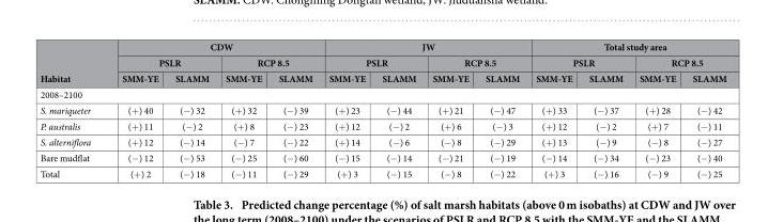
<table><thead><tr><td rowspan="3">Habitat</td><td colspan="4">CDW</td><td colspan="4">JW</td><td colspan="4">Total study area</td></tr><tr><td colspan="2">PSLR</td><td colspan="2">RCP 8.5</td><td colspan="2">PSLR</td><td colspan="2">RCP 8.5</td><td colspan="2">PSLR</td><td colspan="2">RCP 8.5</td></tr><tr><td>SMM-YE</td><td>SLAMM</td><td>SMM-YE</td><td>SLAMM</td><td>SMM-YE</td><td>SLAMM</td><td>SMM-YE</td><td>SLAMM</td><td>SMM-YE</td><td>SLAMM</td><td>SMM-YE</td><td>SLAMM</td></tr></thead><tbody><tr><td colspan="13">2008–2100</td></tr><tr><td>S. mariqueter</td><td>(+ ) 40</td><td>(− ) 32</td><td>(+ ) 32</td><td>(− ) 39</td><td>(+ ) 23</td><td>(− ) 44</td><td>(+ ) 21</td><td>(− ) 47</td><td>(+ ) 33</td><td>(− ) 37</td><td>(+ ) 28</td><td>(− ) 42</td></tr><tr><td>P. australis</td><td>(+ ) 11</td><td>(− ) 2</td><td>(+ ) 8</td><td>(− ) 23</td><td>(+ ) 12</td><td>(− ) 2</td><td>(+ ) 6</td><td>(− ) 3</td><td>(+ ) 12</td><td>(− ) 2</td><td>(+ ) 7</td><td>(− ) 11</td></tr><tr><td>S. alterniflora</td><td>(+ ) 12</td><td>(− ) 14</td><td>(− ) 7</td><td>(− ) 22</td><td>(+ ) 14</td><td>(− ) 6</td><td>(− ) 8</td><td>(− ) 29</td><td>(+ ) 13</td><td>(− ) 9</td><td>(− ) 8</td><td>(− ) 27</td></tr><tr><td>Bare mudflat</td><td>(− ) 12</td><td>(− ) 53</td><td>(− ) 25</td><td>(− ) 60</td><td>(− ) 15</td><td>(− ) 14</td><td>(− ) 21</td><td>(− ) 19</td><td>(− ) 14</td><td>(− ) 34</td><td>(− ) 23</td><td>(− ) 40</td></tr><tr><td>Total</td><td>(+ ) 2</td><td>(− ) 18</td><td>(− ) 11</td><td>(− ) 29</td><td>(+ ) 3</td><td>(− ) 15</td><td>(− ) 8</td><td>(− ) 22</td><td>(+ ) 3</td><td>(− ) 16</td><td>(− ) 9</td><td>(− ) 25</td></tr></tbody></table>